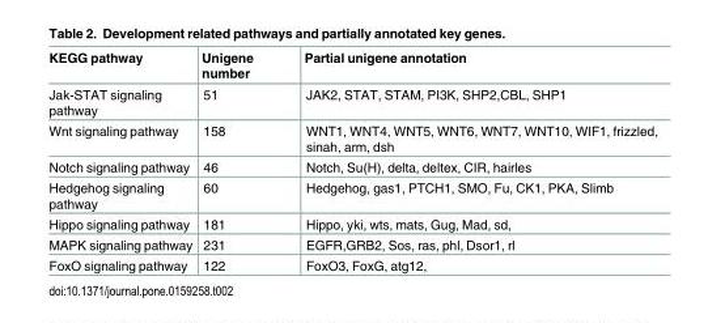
<table><thead><tr><td>KEGG pathway</td><td>Unigene number</td><td>Partial unigene annotation</td></tr></thead><tbody><tr><td>Jak-STAT signaling pathway</td><td>51</td><td>JAK2, STAT, STAM, PI3K, SHP2,CBL, SHP1</td></tr><tr><td>Wnt signaling pathway</td><td>158</td><td>WNT1, WNT4, WNT5, WNT6, WNT7, WNT10, WIF1, frizzled, sinah, arm, dsh</td></tr><tr><td>Notch signaling pathway</td><td>46</td><td>Notch, Su(H), delta, deltex, CIR, hairles</td></tr><tr><td>Hedgehog signaling pathway</td><td>60</td><td>Hedgehog, gas1, PTCH1, SMO, Fu, CK1, PKA, Slimb</td></tr><tr><td>Hippo signaling pathway</td><td>181</td><td>Hippo, yki, wts, mats, Gug, Mad, sd,</td></tr><tr><td>MAPK signaling pathway</td><td>231</td><td>EGFR,GRB2, Sos, ras, phl, Dsor1, rl</td></tr><tr><td>FoxO signaling pathway</td><td>122</td><td>FoxO3, FoxG, atg12,</td></tr></tbody></table>